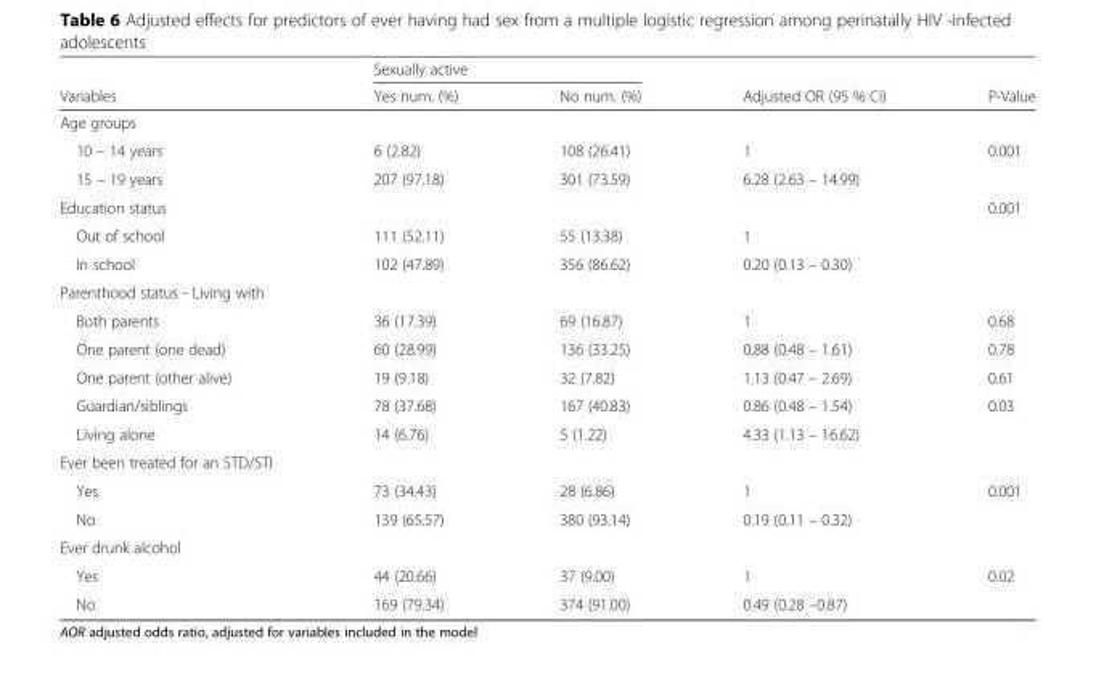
<table><thead><tr><td rowspan="2">Variables</td><td colspan="2">Sexually active</td><td rowspan="2">Adjusted OR (95 % CI)</td><td rowspan="2">P-Value</td></tr><tr><td>Yes num. (%)</td><td>No num. (%)</td></tr></thead><tbody><tr><td colspan="5">Age groups</td></tr><tr><td>10 – 14 years</td><td>6 (2.82)</td><td>108 (26.41)</td><td>1</td><td>0.001</td></tr><tr><td>15 – 19 years</td><td>207 (97.18)</td><td>301 (73.59)</td><td>6.28 (2.63 – 14.99)</td><td></td></tr><tr><td>Education status</td><td></td><td></td><td></td><td>0.001</td></tr><tr><td>Out of school</td><td>111 (52.11)</td><td>55 (13.38)</td><td>1</td><td></td></tr><tr><td>In school</td><td>102 (47.89)</td><td>356 (86.62)</td><td>0.20 (0.13 – 0.30)</td><td></td></tr><tr><td colspan="5">Parenthood status - Living with</td></tr><tr><td>Both parents</td><td>36 (17.39)</td><td>69 (16.87)</td><td>1</td><td>0.68</td></tr><tr><td>One parent (one dead)</td><td>60 (28.99)</td><td>136 (33.25)</td><td>0.88 (0.48 – 1.61)</td><td>0.78</td></tr><tr><td>One parent (other alive)</td><td>19 (9.18)</td><td>32 (7.82)</td><td>1.13 (0.47 – 2.69)</td><td>0.61</td></tr><tr><td>Guardian/siblings</td><td>78 (37.68)</td><td>167 (40.83)</td><td>0.86 (0.48 – 1.54)</td><td>0.03</td></tr><tr><td>Living alone</td><td>14 (6.76)</td><td>5 (1.22)</td><td>4.33 (1.13 – 16.62)</td><td></td></tr><tr><td colspan="5">Ever been treated for an STD/STI</td></tr><tr><td>Yes</td><td>73 (34.43)</td><td>28 (6.86)</td><td>1</td><td>0.001</td></tr><tr><td>No</td><td>139 (65.57)</td><td>380 (93.14)</td><td>0.19 (0.11 – 0.32)</td><td></td></tr><tr><td colspan="5">Ever drunk alcohol</td></tr><tr><td>Yes</td><td>44 (20.66)</td><td>37 (9.00)</td><td>1</td><td>0.02</td></tr><tr><td>No</td><td>169 (79.34)</td><td>374 (91.00)</td><td>0.49 (0.28 –0.87)</td><td></td></tr></tbody></table>